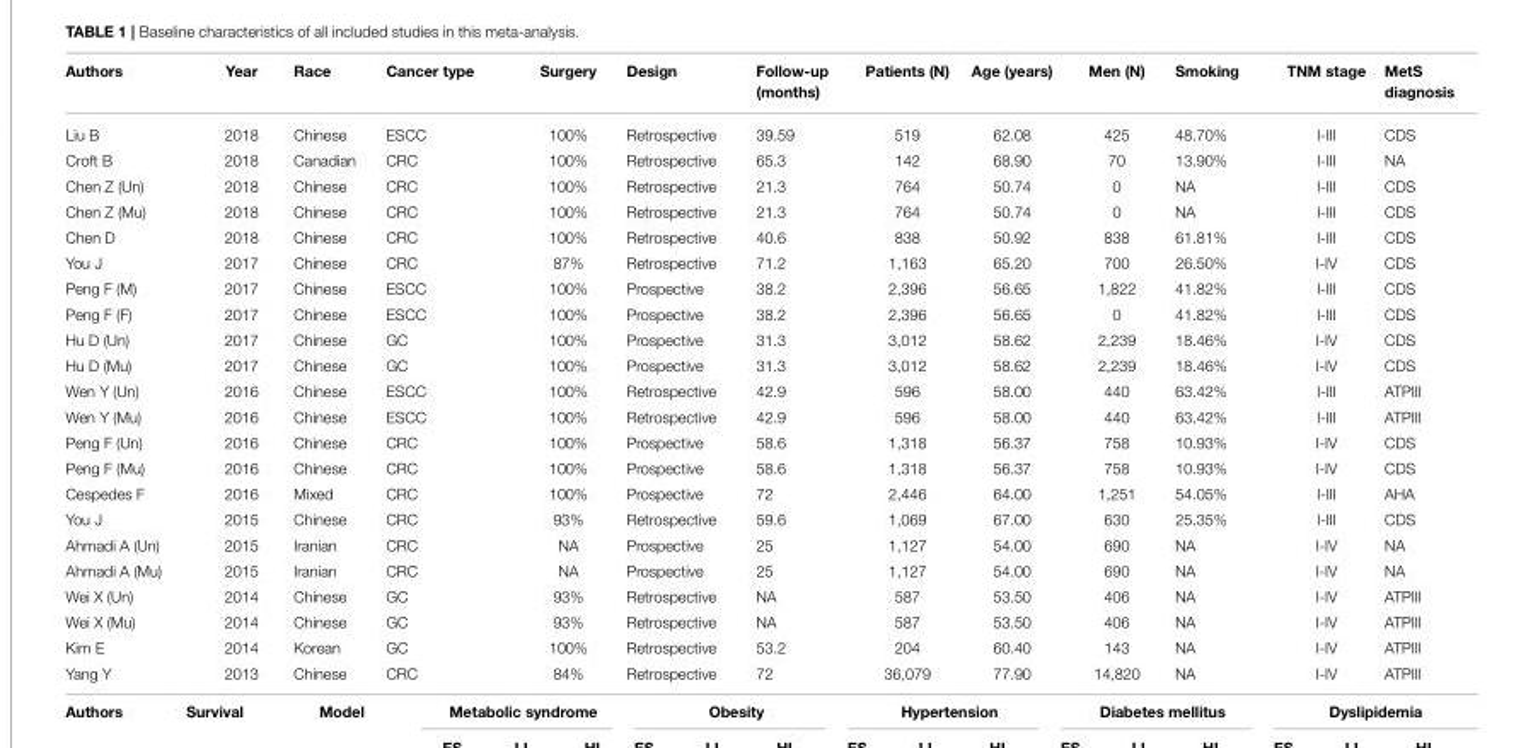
<table><thead><tr><td>Authors</td><td>Year</td><td>Race</td><td>Cancer type</td><td>Surgery</td><td>Design</td><td>Follow-up (months)</td><td>Patients (N)</td><td>Age (years)</td><td>Men (N)</td><td>Smoking</td><td>TNM stage</td><td>MetS diagnosis</td></tr></thead><tbody><tr><td>Liu B</td><td>2018</td><td>Chinese</td><td>ESCC</td><td>100%</td><td>Retrospective</td><td>39.59</td><td>519</td><td>62.08</td><td>425</td><td>48.70%</td><td>I-III</td><td>CDS</td></tr><tr><td>Croft B</td><td>2018</td><td>Canadian</td><td>CRC</td><td>100%</td><td>Retrospective</td><td>65.3</td><td>142</td><td>68.90</td><td>70</td><td>13.90%</td><td>I-III</td><td>NA</td></tr><tr><td>Chen Z (Un)</td><td>2018</td><td>Chinese</td><td>CRC</td><td>100%</td><td>Retrospective</td><td>21.3</td><td>764</td><td>50.74</td><td>0</td><td>NA</td><td>I-III</td><td>CDS</td></tr><tr><td>Chen Z (Mu)</td><td>2018</td><td>Chinese</td><td>CRC</td><td>100%</td><td>Retrospective</td><td>21.3</td><td>764</td><td>50.74</td><td>0</td><td>NA</td><td>I-III</td><td>CDS</td></tr><tr><td>Chen D</td><td>2018</td><td>Chinese</td><td>CRC</td><td>100%</td><td>Retrospective</td><td>40.6</td><td>838</td><td>50.92</td><td>838</td><td>61.81%</td><td>I-III</td><td>CDS</td></tr><tr><td>You J</td><td>2017</td><td>Chinese</td><td>CRC</td><td>87%</td><td>Retrospective</td><td>71.2</td><td>1,163</td><td>65.20</td><td>700</td><td>26.50%</td><td>I-IV</td><td>CDS</td></tr><tr><td>Peng F (M)</td><td>2017</td><td>Chinese</td><td>ESCC</td><td>100%</td><td>Prospective</td><td>38.2</td><td>2,396</td><td>56.65</td><td>1,822</td><td>41.82%</td><td>I-III</td><td>CDS</td></tr><tr><td>Peng F (F)</td><td>2017</td><td>Chinese</td><td>ESCC</td><td>100%</td><td>Prospective</td><td>38.2</td><td>2,396</td><td>56.65</td><td>0</td><td>41.82%</td><td>I-III</td><td>CDS</td></tr><tr><td>Hu D (Un)</td><td>2017</td><td>Chinese</td><td>GC</td><td>100%</td><td>Prospective</td><td>31.3</td><td>3,012</td><td>58.62</td><td>2,239</td><td>18.46%</td><td>I-IV</td><td>CDS</td></tr><tr><td>Hu D (Mu)</td><td>2017</td><td>Chinese</td><td>GC</td><td>100%</td><td>Prospective</td><td>31.3</td><td>3,012</td><td>58.62</td><td>2,239</td><td>18.46%</td><td>I-IV</td><td>CDS</td></tr><tr><td>Wen Y (Un)</td><td>2016</td><td>Chinese</td><td>ESCC</td><td>100%</td><td>Retrospective</td><td>42.9</td><td>596</td><td>58.00</td><td>440</td><td>63.42%</td><td>I-III</td><td>ATPIII</td></tr><tr><td>Wen Y (Mu)</td><td>2016</td><td>Chinese</td><td>ESCC</td><td>100%</td><td>Retrospective</td><td>42.9</td><td>596</td><td>58.00</td><td>440</td><td>63.42%</td><td>I-III</td><td>ATPIII</td></tr><tr><td>Peng F (Un)</td><td>2016</td><td>Chinese</td><td>CRC</td><td>100%</td><td>Prospective</td><td>58.6</td><td>1,318</td><td>56.37</td><td>758</td><td>10.93%</td><td>I-IV</td><td>CDS</td></tr><tr><td>Peng F (Mu)</td><td>2016</td><td>Chinese</td><td>CRC</td><td>100%</td><td>Prospective</td><td>58.6</td><td>1,318</td><td>56.37</td><td>758</td><td>10.93%</td><td>I-IV</td><td>CDS</td></tr><tr><td>Cespedes F</td><td>2016</td><td>Mixed</td><td>CRC</td><td>100%</td><td>Prospective</td><td>72</td><td>2,446</td><td>64.00</td><td>1,251</td><td>54.05%</td><td>I-III</td><td>AHA</td></tr><tr><td>You J</td><td>2015</td><td>Chinese</td><td>CRC</td><td>93%</td><td>Retrospective</td><td>59.6</td><td>1,069</td><td>67.00</td><td>630</td><td>25.35%</td><td>I-III</td><td>CDS</td></tr><tr><td>Ahmadi A (Un)</td><td>2015</td><td>Iranian</td><td>CRC</td><td>NA</td><td>Prospective</td><td>25</td><td>1,127</td><td>54.00</td><td>690</td><td>NA</td><td>I-IV</td><td>NA</td></tr><tr><td>Ahmadi A (Mu)</td><td>2015</td><td>Iranian</td><td>CRC</td><td>NA</td><td>Prospective</td><td>25</td><td>1,127</td><td>54.00</td><td>690</td><td>NA</td><td>I-IV</td><td>NA</td></tr><tr><td>Wei X (Un)</td><td>2014</td><td>Chinese</td><td>GC</td><td>93%</td><td>Retrospective</td><td>NA</td><td>587</td><td>53.50</td><td>406</td><td>NA</td><td>I-IV</td><td>ATPIII</td></tr><tr><td>Wei X (Mu)</td><td>2014</td><td>Chinese</td><td>GC</td><td>93%</td><td>Retrospective</td><td>NA</td><td>587</td><td>53.50</td><td>406</td><td>NA</td><td>I-IV</td><td>ATPIII</td></tr><tr><td>Kim E</td><td>2014</td><td>Korean</td><td>GC</td><td>100%</td><td>Retrospective</td><td>53.2</td><td>204</td><td>60.40</td><td>143</td><td>NA</td><td>I-IV</td><td>ATPIII</td></tr><tr><td>Yang Y</td><td>2013</td><td>Chinese</td><td>CRC</td><td>84%</td><td>Retrospective</td><td>72</td><td>36,079</td><td>77.90</td><td>14,820</td><td>NA</td><td>I-IV</td><td>ATPIII</td></tr></tbody></table>